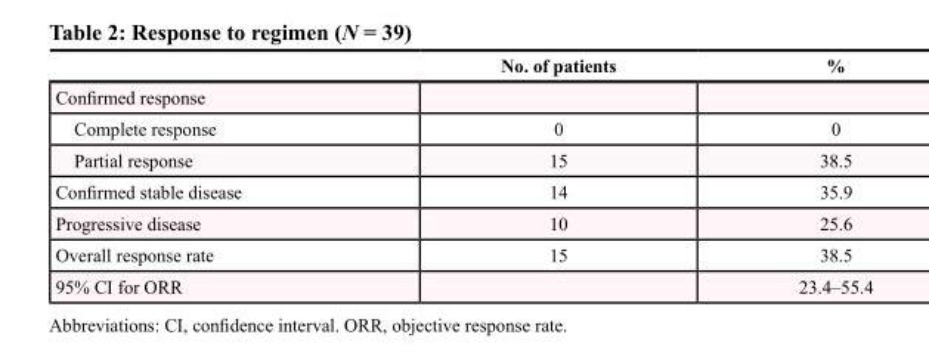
<table><thead><tr><td></td><td>No. of patients</td><td>%</td></tr></thead><tbody><tr><td colspan="3">Confirmed response</td></tr><tr><td>Complete response</td><td>0</td><td>0</td></tr><tr><td>Partial response</td><td>15</td><td>38.5</td></tr><tr><td>Confirmed stable disease</td><td>14</td><td>35.9</td></tr><tr><td>Progressive disease</td><td>10</td><td>25.6</td></tr><tr><td>Overall response rate</td><td>15</td><td>38.5</td></tr><tr><td>95% CI for ORR</td><td></td><td>23.4–55.4</td></tr></tbody></table>